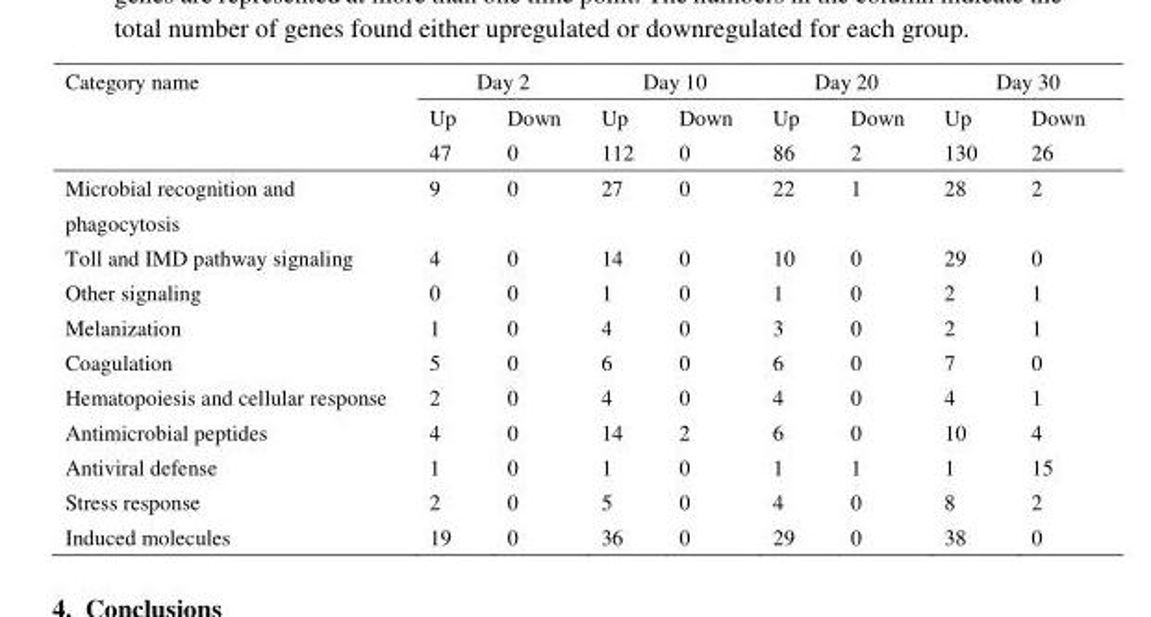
<table><thead><tr><td rowspan="2">Category name</td><td colspan="2">Day 2</td><td colspan="2">Day 10</td><td colspan="2">Day 20</td><td colspan="2">Day 30</td></tr><tr><td>Up 47</td><td>Down 0</td><td>Up 112</td><td>Down 0</td><td>Up 86</td><td>Down 2</td><td>Up 130</td><td>Down 26</td></tr></thead><tbody><tr><td>Microbial recognition and phagocytosis</td><td>9</td><td>0</td><td>27</td><td>0</td><td>22</td><td>1</td><td>28</td><td>2</td></tr><tr><td>Toll and IMD pathway signaling</td><td>4</td><td>0</td><td>14</td><td>0</td><td>10</td><td>0</td><td>29</td><td>0</td></tr><tr><td>Other signaling</td><td>0</td><td>0</td><td>1</td><td>0</td><td>1</td><td>0</td><td>2</td><td>1</td></tr><tr><td>Melanization</td><td>1</td><td>0</td><td>4</td><td>0</td><td>3</td><td>0</td><td>2</td><td>1</td></tr><tr><td>Coagulation</td><td>5</td><td>0</td><td>6</td><td>0</td><td>6</td><td>0</td><td>7</td><td>0</td></tr><tr><td>Hematopoiesis and cellular response</td><td>2</td><td>0</td><td>4</td><td>0</td><td>4</td><td>0</td><td>4</td><td>1</td></tr><tr><td>Antimicrobial peptides</td><td>4</td><td>0</td><td>14</td><td>2</td><td>6</td><td>0</td><td>10</td><td>4</td></tr><tr><td>Antiviral defense</td><td>1</td><td>0</td><td>1</td><td>0</td><td>1</td><td>1</td><td>1</td><td>15</td></tr><tr><td>Stress response</td><td>2</td><td>0</td><td>5</td><td>0</td><td>4</td><td>0</td><td>8</td><td>2</td></tr><tr><td>Induced molecules</td><td>19</td><td>0</td><td>36</td><td>0</td><td>29</td><td>0</td><td>38</td><td>0</td></tr></tbody></table>